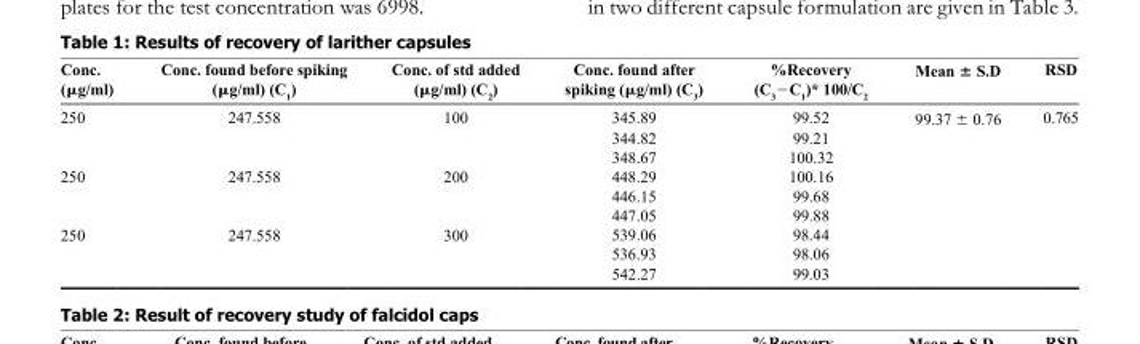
<table><thead><tr><td>Conc. (μg/ml)</td><td>Conc. found before spiking (μg/ml) (C<sub>1</sub>)</td><td>Conc. of std added (μg/ml) (C<sub>2</sub>)</td><td>Conc. found after spiking (μg/ml) (C<sub>3</sub>)</td><td>%Recovery (C<sub>3</sub>–C<sub>1</sub>)* 100/C<sub>2</sub></td><td>Mean ± S.D</td><td>RSD</td></tr></thead><tbody><tr><td rowspan="3">250</td><td>247.558</td><td>100</td><td>345.89</td><td>99.52</td><td>99.37 ± 0.76</td><td>0.765</td></tr><tr><td></td><td></td><td>344.82</td><td>99.21</td><td></td><td></td></tr><tr><td></td><td></td><td>348.67</td><td>100.32</td><td></td><td></td></tr><tr><td rowspan="3">250</td><td>247.558</td><td>200</td><td>448.29</td><td>100.16</td><td></td><td></td></tr><tr><td></td><td></td><td>446.15</td><td>99.68</td><td></td><td></td></tr><tr><td></td><td></td><td>447.05</td><td>99.88</td><td></td><td></td></tr><tr><td rowspan="3">250</td><td>247.558</td><td>300</td><td>539.06</td><td>98.44</td><td></td><td></td></tr><tr><td></td><td></td><td>536.93</td><td>98.06</td><td></td><td></td></tr><tr><td></td><td></td><td>542.27</td><td>99.03</td><td></td><td></td></tr></tbody></table>